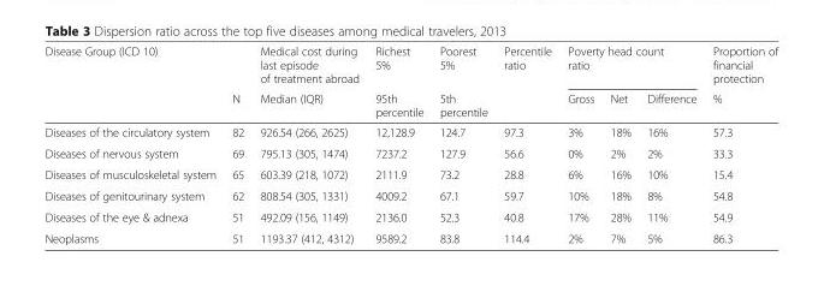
<table><thead><tr><td rowspan="2">Disease Group (ICD 10)</td><td rowspan="2">N</td><td rowspan="2">Medical cost during last episode of treatment abroad Median (IQR)</td><td rowspan="2">Richest 5% 95th percentile</td><td rowspan="2">Poorest 5% 5th percentile</td><td rowspan="2">Percentile ratio</td><td colspan="3">Poverty head count ratio</td><td rowspan="2">Proportion of financial protection %</td></tr><tr><td>Gross</td><td>Net</td><td>Difference</td></tr></thead><tbody><tr><td>Diseases of the circulatory system</td><td>82</td><td>926.54 (266, 2625)</td><td>12,128.9</td><td>124.7</td><td>97.3</td><td>3%</td><td>18%</td><td>16%</td><td>57.3</td></tr><tr><td>Diseases of nervous system</td><td>69</td><td>795.13 (305, 1474)</td><td>7237.2</td><td>127.9</td><td>56.6</td><td>0%</td><td>2%</td><td>2%</td><td>33.3</td></tr><tr><td>Diseases of musculoskeletal system</td><td>65</td><td>603.39 (218, 1072)</td><td>2111.9</td><td>73.2</td><td>28.8</td><td>6%</td><td>16%</td><td>10%</td><td>15.4</td></tr><tr><td>Diseases of genitourinary system</td><td>62</td><td>808.54 (305, 1331)</td><td>4009.2</td><td>67.1</td><td>59.7</td><td>10%</td><td>18%</td><td>8%</td><td>54.8</td></tr><tr><td>Diseases of the eye &amp; adnexa</td><td>51</td><td>492.09 (156, 1149)</td><td>2136.0</td><td>52.3</td><td>40.8</td><td>17%</td><td>28%</td><td>11%</td><td>54.9</td></tr><tr><td>Neoplasms</td><td>51</td><td>1193.37 (412, 4312)</td><td>9589.2</td><td>83.8</td><td>114.4</td><td>2%</td><td>7%</td><td>5%</td><td>86.3</td></tr></tbody></table>